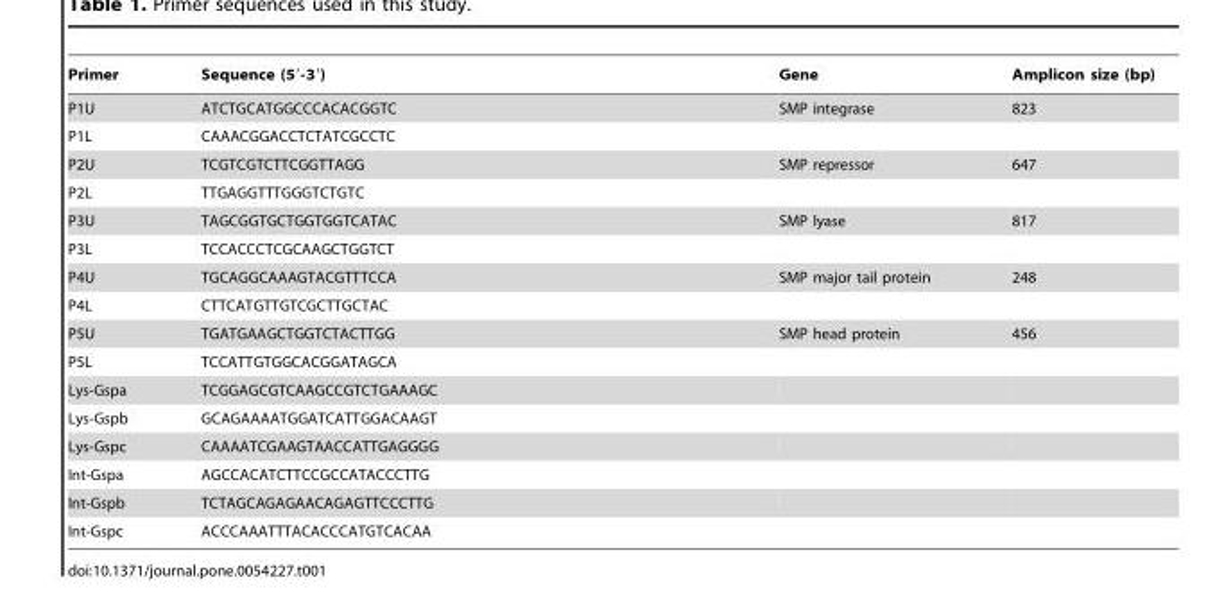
<table><thead><tr><td>Primer</td><td>Sequence (5′-3′)</td><td>Gene</td><td>Amplicon size (bp)</td></tr></thead><tbody><tr><td>P1U</td><td>ATCTGCATGGCCCACACGGTC</td><td>SMP integrase</td><td>823</td></tr><tr><td>P1L</td><td>CAAACGGACCTCTATCGCCTC</td><td></td><td></td></tr><tr><td>P2U</td><td>TCGTCGTCTTCGGTTAGG</td><td>SMP repressor</td><td>647</td></tr><tr><td>P2L</td><td>TTGAGGTTTGGGTCTGTC</td><td></td><td></td></tr><tr><td>P3U</td><td>TAGCGGTGCTGGTGGTCATAC</td><td>SMP lyase</td><td>817</td></tr><tr><td>P3L</td><td>TCCACCCTCGCAAGCTGGTCT</td><td></td><td></td></tr><tr><td>P4U</td><td>TGCAGGCAAAGTACGTTTCCA</td><td>SMP major tail protein</td><td>248</td></tr><tr><td>P4L</td><td>CTTCATGTTGTCGCTTGCTAC</td><td></td><td></td></tr><tr><td>P5U</td><td>TGATGAAGCTGGTCTACTTGG</td><td>SMP head protein</td><td>456</td></tr><tr><td>P5L</td><td>TCCATTGTGGCACGGATAGCA</td><td></td><td></td></tr><tr><td>Lys-Gspa</td><td>TCGGAGCGTCAAGCCGTCTGAAAGC</td><td></td><td></td></tr><tr><td>Lys-Gspb</td><td>GCAGAAAATGGATCATTGGACAAGT</td><td></td><td></td></tr><tr><td>Lys-Gspc</td><td>CAAAATCGAAGTAACCATTGAGGGG</td><td></td><td></td></tr><tr><td>Int-Gspa</td><td>AGCCACATCTTCCGCCATACCCTTG</td><td></td><td></td></tr><tr><td>Int-Gspb</td><td>TCTAGCAGAGAACAGAGTTCCCTTG</td><td></td><td></td></tr><tr><td>Int-Gspc</td><td>ACCCAAATTTACACCCATGTCACAA</td><td></td><td></td></tr></tbody></table>